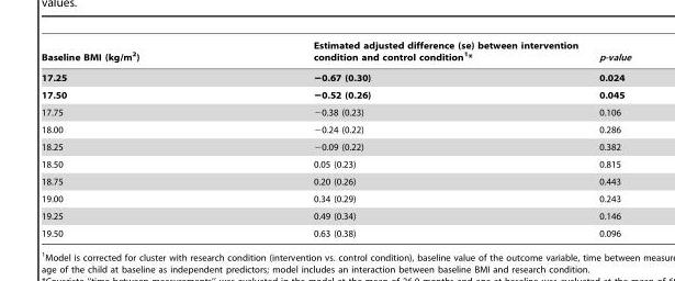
<table><thead><tr><td>Baseline BMI (kg/m<sup>2</sup>)</td><td>Estimated adjusted difference (se) between intervention condition and control condition<sup>1</sup>*</td><td>p-value</td></tr></thead><tbody><tr><td>17.25</td><td>−0.67 (0.30)</td><td>0.024</td></tr><tr><td>17.50</td><td>−0.52 (0.26)</td><td>0.045</td></tr><tr><td>17.75</td><td>−0.38 (0.23)</td><td>0.106</td></tr><tr><td>18.00</td><td>−0.24 (0.22)</td><td>0.286</td></tr><tr><td>18.25</td><td>−0.09 (0.22)</td><td>0.382</td></tr><tr><td>18.50</td><td>0.05 (0.23)</td><td>0.815</td></tr><tr><td>18.75</td><td>0.20 (0.26)</td><td>0.443</td></tr><tr><td>19.00</td><td>0.34 (0.29)</td><td>0.243</td></tr><tr><td>19.25</td><td>0.49 (0.34)</td><td>0.146</td></tr><tr><td>19.50</td><td>0.63 (0.38)</td><td>0.096</td></tr></tbody></table>